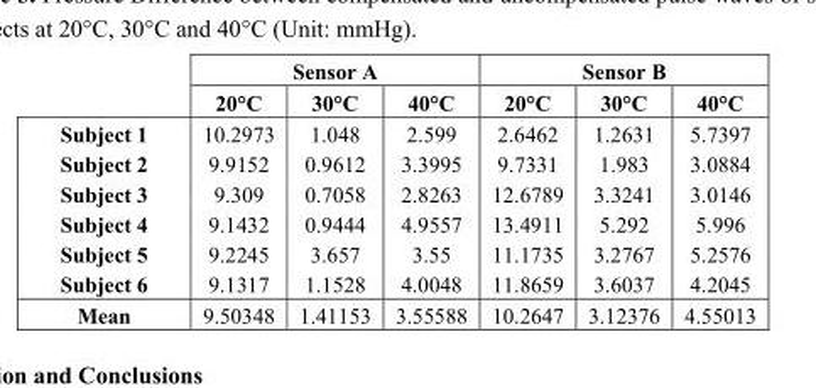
<table><thead><tr><td rowspan="2"></td><td colspan="3">Sensor A</td><td colspan="3">Sensor B</td></tr><tr><td>20°C</td><td>30°C</td><td>40°C</td><td>20°C</td><td>30°C</td><td>40°C</td></tr></thead><tbody><tr><td>Subject 1</td><td>10.2973</td><td>1.048</td><td>2.599</td><td>2.6462</td><td>1.2631</td><td>5.7397</td></tr><tr><td>Subject 2</td><td>9.9152</td><td>0.9612</td><td>3.3995</td><td>9.7331</td><td>1.983</td><td>3.0884</td></tr><tr><td>Subject 3</td><td>9.309</td><td>0.7058</td><td>2.8263</td><td>12.6789</td><td>3.3241</td><td>3.0146</td></tr><tr><td>Subject 4</td><td>9.1432</td><td>0.9444</td><td>4.9557</td><td>13.4911</td><td>5.292</td><td>5.996</td></tr><tr><td>Subject 5</td><td>9.2245</td><td>3.657</td><td>3.55</td><td>11.1735</td><td>3.2767</td><td>5.2576</td></tr><tr><td>Subject 6</td><td>9.1317</td><td>1.1528</td><td>4.0048</td><td>11.8659</td><td>3.6037</td><td>4.2045</td></tr><tr><td>Mean</td><td>9.50348</td><td>1.41153</td><td>3.55588</td><td>10.2647</td><td>3.12376</td><td>4.55013</td></tr></tbody></table>